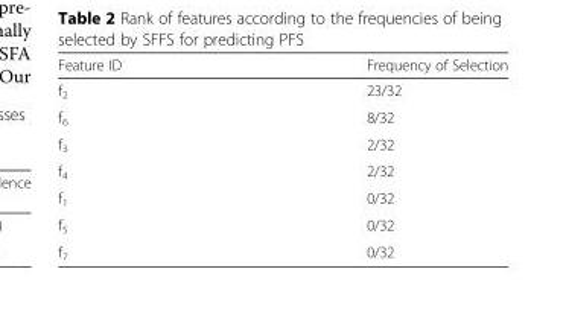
<table><thead><tr><td>Feature ID</td><td>Frequency of Selection</td></tr></thead><tbody><tr><td>f<sub>2</sub></td><td>23/32</td></tr><tr><td>f<sub>6</sub></td><td>8/32</td></tr><tr><td>f<sub>3</sub></td><td>2/32</td></tr><tr><td>f<sub>4</sub></td><td>2/32</td></tr><tr><td>f<sub>1</sub></td><td>0/32</td></tr><tr><td>f<sub>5</sub></td><td>0/32</td></tr><tr><td>f<sub>7</sub></td><td>0/32</td></tr></tbody></table>